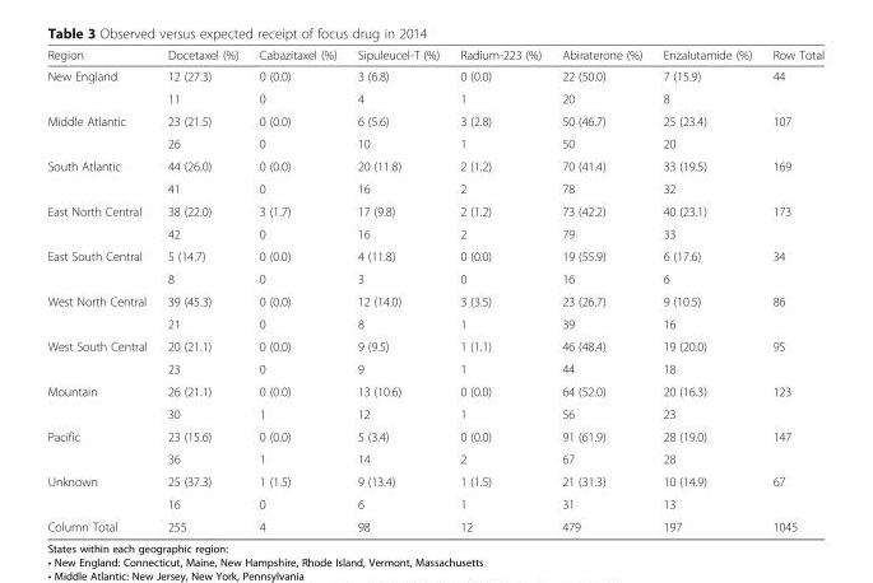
<table><thead><tr><td>Region</td><td>Docetaxel (%)</td><td>Cabazitaxel (%)</td><td>Sipuleucel-T (%)</td><td>Radium-223 (%)</td><td>Abiraterone (%)</td><td>Enzalutamide (%)</td><td>Row Total</td></tr></thead><tbody><tr><td rowspan="2">New England</td><td>12 (27.3)</td><td>0 (0.0)</td><td>3 (6.8)</td><td>0 (0.0)</td><td>22 (50.0)</td><td>7 (15.9)</td><td>44</td></tr><tr><td>11</td><td>0</td><td>4</td><td>1</td><td>20</td><td>8</td><td></td></tr><tr><td rowspan="2">Middle Atlantic</td><td>23 (21.5)</td><td>0 (0.0)</td><td>6 (5.6)</td><td>3 (2.8)</td><td>50 (46.7)</td><td>25 (23.4)</td><td>107</td></tr><tr><td>26</td><td>0</td><td>10</td><td>1</td><td>50</td><td>20</td><td></td></tr><tr><td rowspan="2">South Atlantic</td><td>44 (26.0)</td><td>0 (0.0)</td><td>20 (11.8)</td><td>2 (1.2)</td><td>70 (41.4)</td><td>33 (19.5)</td><td>169</td></tr><tr><td>41</td><td>0</td><td>16</td><td>2</td><td>78</td><td>32</td><td></td></tr><tr><td rowspan="2">East North Central</td><td>38 (22.0)</td><td>3 (1.7)</td><td>17 (9.8)</td><td>2 (1.2)</td><td>73 (42.2)</td><td>40 (23.1)</td><td>173</td></tr><tr><td>42</td><td>0</td><td>16</td><td>2</td><td>79</td><td>33</td><td></td></tr><tr><td rowspan="2">East South Central</td><td>5 (14.7)</td><td>0 (0.0)</td><td>4 (11.8)</td><td>0 (0.0)</td><td>19 (55.9)</td><td>6 (17.6)</td><td>34</td></tr><tr><td>8</td><td>0</td><td>3</td><td>0</td><td>16</td><td>6</td><td></td></tr><tr><td rowspan="2">West North Central</td><td>39 (45.3)</td><td>0 (0.0)</td><td>12 (14.0)</td><td>3 (3.5)</td><td>23 (26.7)</td><td>9 (10.5)</td><td>86</td></tr><tr><td>21</td><td>0</td><td>8</td><td>1</td><td>39</td><td>16</td><td></td></tr><tr><td rowspan="2">West South Central</td><td>20 (21.1)</td><td>0 (0.0)</td><td>9 (9.5)</td><td>1 (1.1)</td><td>46 (48.4)</td><td>19 (20.0)</td><td>95</td></tr><tr><td>23</td><td>0</td><td>9</td><td>1</td><td>44</td><td>18</td><td></td></tr><tr><td rowspan="2">Mountain</td><td>26 (21.1)</td><td>0 (0.0)</td><td>13 (10.6)</td><td>0 (0.0)</td><td>64 (52.0)</td><td>20 (16.3)</td><td>123</td></tr><tr><td>30</td><td>1</td><td>12</td><td>1</td><td>56</td><td>23</td><td></td></tr><tr><td rowspan="2">Pacific</td><td>23 (15.6)</td><td>0 (0.0)</td><td>5 (3.4)</td><td>0 (0.0)</td><td>91 (61.9)</td><td>28 (19.0)</td><td>147</td></tr><tr><td>36</td><td>1</td><td>14</td><td>2</td><td>67</td><td>28</td><td></td></tr><tr><td rowspan="2">Unknown</td><td>25 (37.3)</td><td>1 (1.5)</td><td>9 (13.4)</td><td>1 (1.5)</td><td>21 (31.3)</td><td>10 (14.9)</td><td>67</td></tr><tr><td>16</td><td>0</td><td>6</td><td>1</td><td>31</td><td>13</td><td></td></tr><tr><td>Column Total</td><td>255</td><td>4</td><td>98</td><td>12</td><td>479</td><td>197</td><td>1045</td></tr></tbody></table>